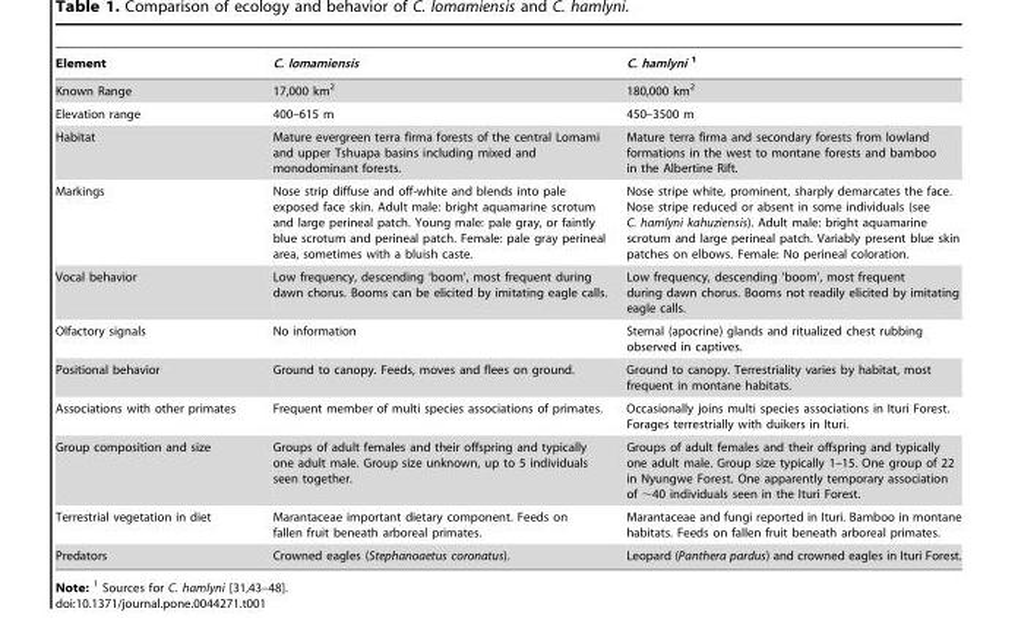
<table><thead><tr><td>Element</td><td>C. lomamiensis</td><td>C. hamlyni <sup>1</sup></td></tr></thead><tbody><tr><td>Known Range</td><td>17,000 km<sup>2</sup></td><td>180,000 km<sup>2</sup></td></tr><tr><td>Elevation range</td><td>400–615 m</td><td>450–3500 m</td></tr><tr><td>Habitat</td><td>Mature evergreen terra firma forests of the central Lomami and upper Tshuapa basins including mixed and monodominant forests.</td><td>Mature terra firma and secondary forests from lowland formations in the west to montane forests and bamboo in the Albertine Rift.</td></tr><tr><td>Markings</td><td>Nose strip diffuse and off-white and blends into pale exposed face skin. Adult male: bright aquamarine scrotum and large perineal patch. Young male: pale gray, or faintly blue scrotum and perineal patch. Female: pale gray perineal area, sometimes with a bluish caste.</td><td>Nose stripe white, prominent, sharply demarcates the face. Nose stripe reduced or absent in some individuals (see C. hamlyni kahuziensis). Adult male: bright aquamarine scrotum and large perineal patch. Variably present blue skin patches on elbows. Female: No perineal coloration.</td></tr><tr><td>Vocal behavior</td><td>Low frequency, descending ‘boom’, most frequent during dawn chorus. Booms can be elicited by imitating eagle calls.</td><td>Low frequency, descending ‘boom’, most frequent during dawn chorus. Booms not readily elicited by imitating eagle calls.</td></tr><tr><td>Olfactory signals</td><td>No information</td><td>Sternal (apocrine) glands and ritualized chest rubbing observed in captives.</td></tr><tr><td>Positional behavior</td><td>Ground to canopy. Feeds, moves and flees on ground.</td><td>Ground to canopy. Terrestriality varies by habitat, most frequent in montane habitats.</td></tr><tr><td>Associations with other primates</td><td>Frequent member of multi species associations of primates.</td><td>Occasionally joins multi species associations in Ituri Forest. Forages terrestrially with duikers in Ituri.</td></tr><tr><td>Group composition and size</td><td>Groups of adult females and their offspring and typically one adult male. Group size unknown, up to 5 individuals seen together.</td><td>Groups of adult females and their offspring and typically one adult male. Group size typically 1–15. One group of 22 in Nyungwe Forest. One apparently temporary association of ∼40 individuals seen in the Ituri Forest.</td></tr><tr><td>Terrestrial vegetation in diet</td><td>Marantaceae important dietary component. Feeds on fallen fruit beneath arboreal primates.</td><td>Marantaceae and fungi reported in Ituri. Bamboo in montane habitats. Feeds on fallen fruit beneath arboreal primates.</td></tr><tr><td>Predators</td><td>Crowned eagles (Stephanoaetus coronatus).</td><td>Leopard (Panthera pardus) and crowned eagles in Ituri Forest.</td></tr></tbody></table>